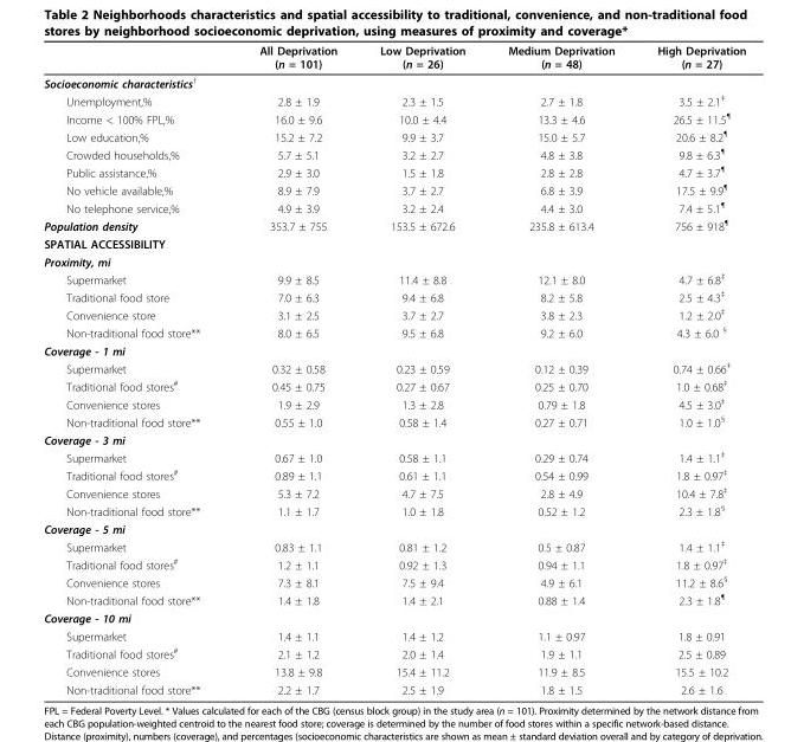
<table><thead><tr><td></td><td>All Deprivation (n = 101)</td><td>Low Deprivation (n = 26)</td><td>Medium Deprivation (n = 48)</td><td>High Deprivation (n = 27)</td></tr></thead><tbody><tr><td colspan="5">Socioeconomic characteristics<sup>†</sup></td></tr><tr><td>Unemployment,%</td><td>2.8 ± 1.9</td><td>2.3 ± 1.5</td><td>2.7 ± 1.8</td><td>3.5 ± 2.1<sup>‡</sup></td></tr><tr><td>Income &lt; 100% FPL,%</td><td>16.0 ± 9.6</td><td>10.0 ± 4.4</td><td>13.3 ± 4.6</td><td>26.5 ± 11.5<sup>¶</sup></td></tr><tr><td>Low education,%</td><td>15.2 ± 7.2</td><td>9.9 ± 3.7</td><td>15.0 ± 5.7</td><td>20.6 ± 8.2<sup>¶</sup></td></tr><tr><td>Crowded households,%</td><td>5.7 ± 5.1</td><td>3.2 ± 2.7</td><td>4.8 ± 3.8</td><td>9.8 ± 6.3<sup>¶</sup></td></tr><tr><td>Public assistance,%</td><td>2.9 ± 3.0</td><td>1.5 ± 1.8</td><td>2.8 ± 2.8</td><td>4.7 ± 3.7<sup>¶</sup></td></tr><tr><td>No vehicle available,%</td><td>8.9 ± 7.9</td><td>3.7 ± 2.7</td><td>6.8 ± 3.9</td><td>17.5 ± 9.9<sup>¶</sup></td></tr><tr><td>No telephone service,%</td><td>4.9 ± 3.9</td><td>3.2 ± 2.4</td><td>4.4 ± 3.0</td><td>7.4 ± 5.1<sup>¶</sup></td></tr><tr><td>Population density</td><td>353.7 ± 755</td><td>153.5 ± 672.6</td><td>235.8 ± 613.4</td><td>756 ± 918<sup>¶</sup></td></tr><tr><td colspan="5">SPATIAL ACCESSIBILITY</td></tr><tr><td colspan="5">Proximity, mi</td></tr><tr><td>Supermarket</td><td>9.9 ± 8.5</td><td>11.4 ± 8.8</td><td>12.1 ± 8.0</td><td>4.7 ± 6.8<sup>‡</sup></td></tr><tr><td>Traditional food store</td><td>7.0 ± 6.3</td><td>9.4 ± 6.8</td><td>8.2 ± 5.8</td><td>2.5 ± 4.3<sup>‡</sup></td></tr><tr><td>Convenience store</td><td>3.1 ± 2.5</td><td>3.7 ± 2.7</td><td>3.8 ± 2.3</td><td>1.2 ± 2.0<sup>‡</sup></td></tr><tr><td>Non-traditional food store**</td><td>8.0 ± 6.5</td><td>9.5 ± 6.8</td><td>9.2 ± 6.0</td><td>4.3 ± 6.0 <sup>§</sup></td></tr><tr><td colspan="5">Coverage - 1 mi</td></tr><tr><td>Supermarket</td><td>0.32 ± 0.58</td><td>0.23 ± 0.59</td><td>0.12 ± 0.39</td><td>0.74 ± 0.66<sup>‡</sup></td></tr><tr><td>Traditional food stores<sup>#</sup></td><td>0.45 ± 0.75</td><td>0.27 ± 0.67</td><td>0.25 ± 0.70</td><td>1.0 ± 0.68<sup>‡</sup></td></tr><tr><td>Convenience stores</td><td>1.9 ± 2.9</td><td>1.3 ± 2.8</td><td>0.79 ± 1.8</td><td>4.5 ± 3.0<sup>‡</sup></td></tr><tr><td>Non-traditional food store**</td><td>0.55 ± 1.0</td><td>0.58 ± 1.4</td><td>0.27 ± 0.71</td><td>1.0 ± 1.0<sup>§</sup></td></tr><tr><td colspan="5">Coverage - 3 mi</td></tr><tr><td>Supermarket</td><td>0.67 ± 1.0</td><td>0.58 ± 1.1</td><td>0.29 ± 0.74</td><td>1.4 ± 1.1<sup>‡</sup></td></tr><tr><td>Traditional food stores<sup>#</sup></td><td>0.89 ± 1.1</td><td>0.61 ± 1.1</td><td>0.54 ± 0.99</td><td>1.8 ± 0.97<sup>‡</sup></td></tr><tr><td>Convenience stores</td><td>5.3 ± 7.2</td><td>4.7 ± 7.5</td><td>2.8 ± 4.9</td><td>10.4 ± 7.8<sup>‡</sup></td></tr><tr><td>Non-traditional food store**</td><td>1.1 ± 1.7</td><td>1.0 ± 1.8</td><td>0.52 ± 1.2</td><td>2.3 ± 1.8<sup>§</sup></td></tr><tr><td colspan="5">Coverage - 5 mi</td></tr><tr><td>Supermarket</td><td>0.83 ± 1.1</td><td>0.81 ± 1.2</td><td>0.5 ± 0.87</td><td>1.4 ± 1.1<sup>‡</sup></td></tr><tr><td>Traditional food stores<sup>#</sup></td><td>1.2 ± 1.1</td><td>0.92 ± 1.3</td><td>0.94 ± 1.1</td><td>1.8 ± 0.97<sup>‡</sup></td></tr><tr><td>Convenience stores</td><td>7.3 ± 8.1</td><td>7.5 ± 9.4</td><td>4.9 ± 6.1</td><td>11.2 ± 8.6<sup>§</sup></td></tr><tr><td>Non-traditional food store**</td><td>1.4 ± 1.8</td><td>1.4 ± 2.1</td><td>0.88 ± 1.4</td><td>2.3 ± 1.8<sup>¶</sup></td></tr><tr><td colspan="5">Coverage - 10 mi</td></tr><tr><td>Supermarket</td><td>1.4 ± 1.1</td><td>1.4 ± 1.2</td><td>1.1 ± 0.97</td><td>1.8 ± 0.91</td></tr><tr><td>Traditional food stores<sup>#</sup></td><td>2.1 ± 1.2</td><td>2.0 ± 1.4</td><td>1.9 ± 1.1</td><td>2.5 ± 0.89</td></tr><tr><td>Convenience stores</td><td>13.8 ± 9.8</td><td>15.4 ± 11.2</td><td>11.9 ± 8.5</td><td>15.5 ± 10.2</td></tr><tr><td>Non-traditional food store**</td><td>2.2 ± 1.7</td><td>2.5 ± 1.9</td><td>1.8 ± 1.5</td><td>2.6 ± 1.6</td></tr></tbody></table>